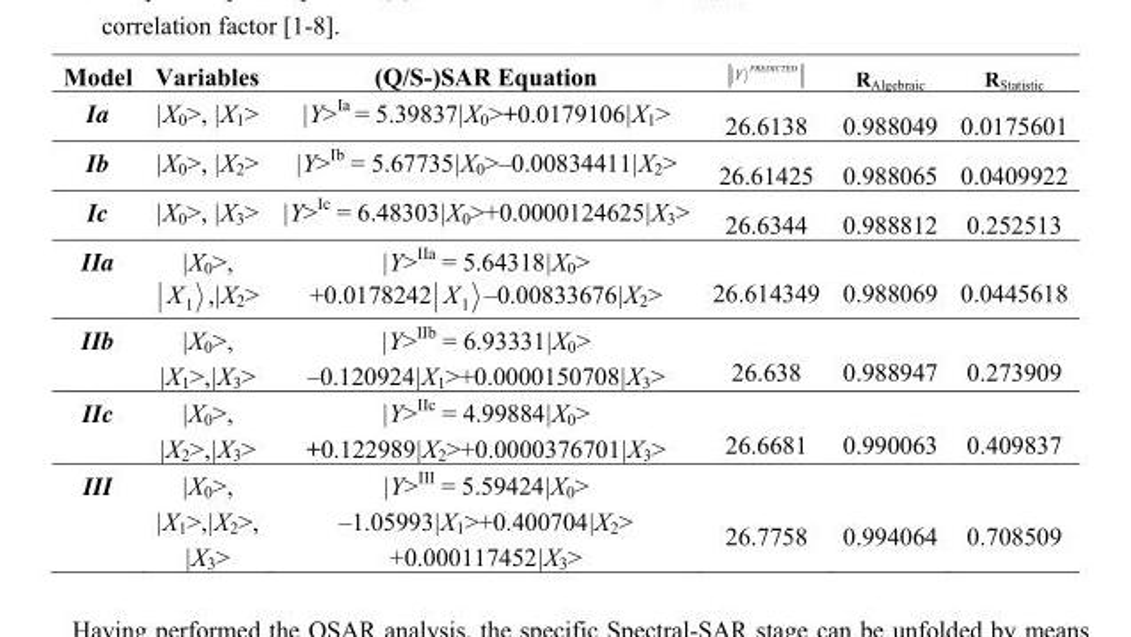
<table><thead><tr><td>Model</td><td>Variables</td><td>(Q/S-)SAR Equation</td><td>PREDICTED Y</td><td>R<sub>Algebraic</sub></td><td>R<sub>Statistic</sub></td></tr></thead><tbody><tr><td>Ia</td><td>|X<sub>0</sub>&gt;, |X<sub>1</sub>&gt;</td><td>|Y&gt;<sup>Ia</sup> = 5.39837|X<sub>0</sub>&gt;+0.0179106|X<sub>1</sub>&gt;</td><td>26.6138</td><td>0.988049</td><td>0.0175601</td></tr><tr><td>Ib</td><td>|X<sub>0</sub>&gt;, |X<sub>2</sub>&gt;</td><td>|Y&gt;Ib = 5.67735|X0&gt;–0.00834411|X2&gt;</td><td>26.61425</td><td>0.988065</td><td>0.0409922</td></tr><tr><td>Ic</td><td>|X<sub>0</sub>&gt;, |X<sub>3</sub>&gt;</td><td>|Y&gt;<sup>Ic</sup> = 6.48303|X<sub>0</sub>&gt;+0.0000124625|X<sub>3</sub>&gt;</td><td>26.6344</td><td>0.988812</td><td>0.252513</td></tr><tr><td>IIa</td><td>|X0&gt;, 1 X ,|X2&gt;</td><td>|Y&gt;IIa = 5.64318|X0&gt; +0.0178242 1 X –0.00833676|X2&gt;</td><td>26.614349</td><td>0.988069</td><td>0.0445618</td></tr><tr><td>IIb</td><td>|X<sub>0</sub>&gt;, |X<sub>1</sub>&gt;,|X<sub>3</sub>&gt;</td><td>|Y&gt;<sup>IIb</sup> = 6.93331|X<sub>0</sub>&gt; –0.120924|X<sub>1</sub>&gt;+0.0000150708|X<sub>3</sub>&gt;</td><td>26.638</td><td>0.988947</td><td>0.273909</td></tr><tr><td>IIc</td><td>|X<sub>0</sub>&gt;, |X<sub>2</sub>&gt;,|X<sub>3</sub>&gt;</td><td>|Y&gt;<sup>IIc</sup> = 4.99884|X<sub>0</sub>&gt; +0.122989|X<sub>2</sub>&gt;+0.0000376701|X<sub>3</sub>&gt;</td><td>26.6681</td><td>0.990063</td><td>0.409837</td></tr><tr><td>III</td><td>|X<sub>0</sub>&gt;, |X<sub>1</sub>&gt;,|X<sub>2</sub>&gt;, |X<sub>3</sub>&gt;</td><td>|Y&gt;<sup>III</sup> = 5.59424|X<sub>0</sub>&gt; –1.05993|X<sub>1</sub>&gt;+0.400704|X<sub>2</sub>&gt; +0.000117452|X<sub>3</sub>&gt;</td><td>26.7758</td><td>0.994064</td><td>0.708509</td></tr></tbody></table>